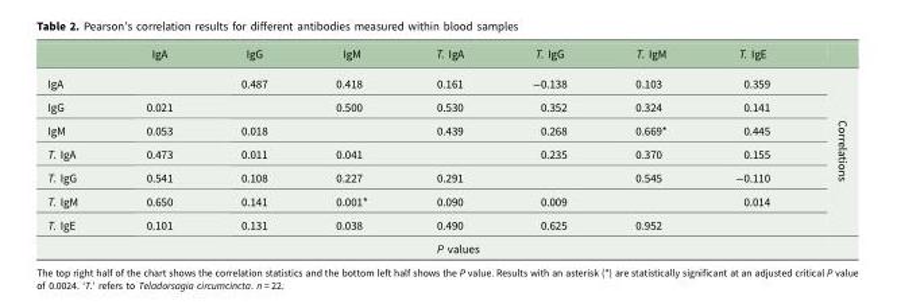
<table><thead><tr><td></td><td>IgA</td><td>IgG</td><td>IgM</td><td>T. IgA</td><td>T. IgG</td><td>T. IgM</td><td>T. IgE</td><td></td></tr></thead><tbody><tr><td>IgA</td><td></td><td>0.487</td><td>0.418</td><td>0.161</td><td>−0.138</td><td>0.103</td><td>0.359</td><td rowspan="7">Correlations</td></tr><tr><td>IgG</td><td>0.021</td><td></td><td>0.500</td><td>0.530</td><td>0.352</td><td>0.324</td><td>0.141</td></tr><tr><td>IgM</td><td>0.053</td><td>0.018</td><td></td><td>0.439</td><td>0.268</td><td>0.669*</td><td>0.445</td></tr><tr><td>T. IgA</td><td>0.473</td><td>0.011</td><td>0.041</td><td></td><td>0.235</td><td>0.370</td><td>0.155</td></tr><tr><td>T. IgG</td><td>0.541</td><td>0.108</td><td>0.227</td><td>0.291</td><td></td><td>0.545</td><td>−0.110</td></tr><tr><td>T. IgM</td><td>0.650</td><td>0.141</td><td>0.001*</td><td>0.090</td><td>0.009</td><td></td><td>0.014</td></tr><tr><td rowspan="2">T. IgE</td><td>0.101</td><td>0.131</td><td>0.038</td><td>0.490</td><td>0.625</td><td>0.952</td><td></td></tr><tr><td colspan="7">P values</td><td></td></tr></tbody></table>